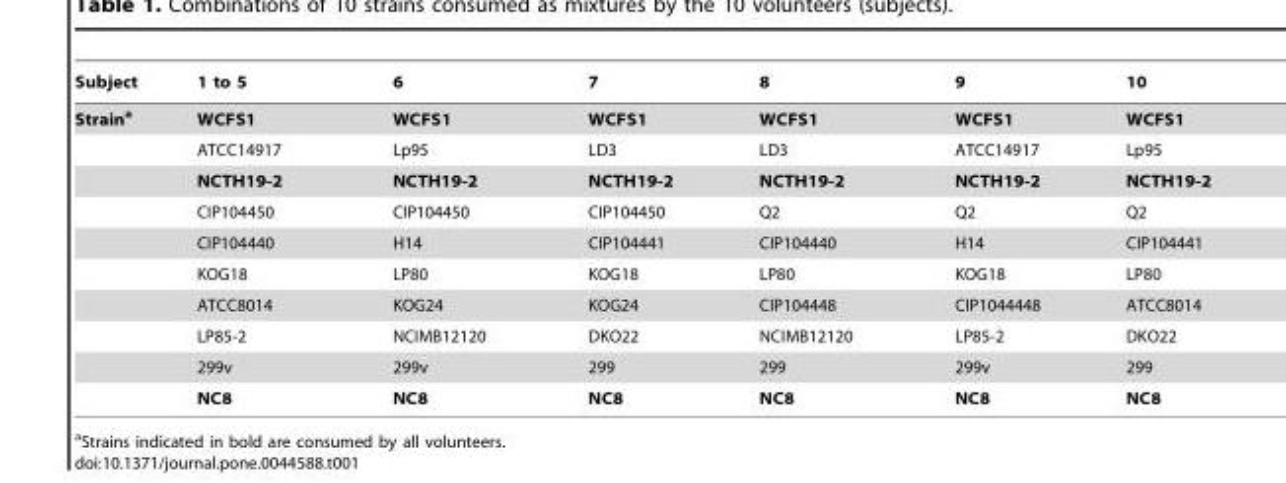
<table><thead><tr><td>Subject</td><td>1 to 5</td><td>6</td><td>7</td><td>8</td><td>9</td><td>10</td></tr></thead><tbody><tr><td rowspan="10">Straina</td><td>WCFS1</td><td>WCFS1</td><td>WCFS1</td><td>WCFS1</td><td>WCFS1</td><td>WCFS1</td></tr><tr><td>ATCC14917</td><td>Lp95</td><td>LD3</td><td>LD3</td><td>ATCC14917</td><td>Lp95</td></tr><tr><td>NCTH19-2</td><td>NCTH19-2</td><td>NCTH19-2</td><td>NCTH19-2</td><td>NCTH19-2</td><td>NCTH19-2</td></tr><tr><td>CIP104450</td><td>CIP104450</td><td>CIP104450</td><td>Q2</td><td>Q2</td><td>Q2</td></tr><tr><td>CIP104440</td><td>H14</td><td>CIP104441</td><td>CIP104440</td><td>H14</td><td>CIP104441</td></tr><tr><td>KOG18</td><td>LP80</td><td>KOG18</td><td>LP80</td><td>KOG18</td><td>LP80</td></tr><tr><td>ATCC8014</td><td>KOG24</td><td>KOG24</td><td>CIP104448</td><td>CIP1044448</td><td>ATCC8014</td></tr><tr><td>LP85-2</td><td>NCIMB12120</td><td>DKO22</td><td>NCIMB12120</td><td>LP85-2</td><td>DKO22</td></tr><tr><td>299v</td><td>299v</td><td>299</td><td>299</td><td>299v</td><td>299</td></tr><tr><td>NC8</td><td>NC8</td><td>NC8</td><td>NC8</td><td>NC8</td><td>NC8</td></tr></tbody></table>